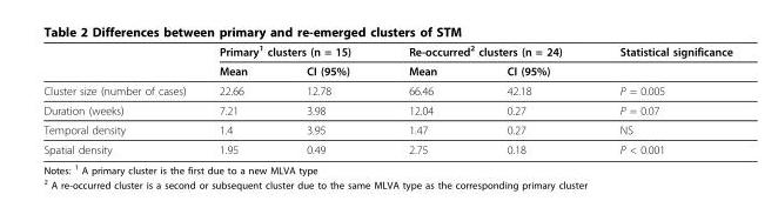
<table><thead><tr><td rowspan="2"></td><td colspan="2">Primary<sup>1</sup> clusters (n = 15)</td><td colspan="2">Re-occurred<sup>2</sup> clusters (n = 24)</td><td rowspan="2">Statistical significance</td></tr><tr><td>Mean</td><td>CI (95%)</td><td>Mean</td><td>CI (95%)</td></tr></thead><tbody><tr><td>Cluster size (number of cases)</td><td>22.66</td><td>12.78</td><td>66.46</td><td>42.18</td><td>P = 0.005</td></tr><tr><td>Duration (weeks)</td><td>7.21</td><td>3.98</td><td>12.04</td><td>0.27</td><td>P = 0.07</td></tr><tr><td>Temporal density</td><td>1.4</td><td>3.95</td><td>1.47</td><td>0.27</td><td>NS</td></tr><tr><td>Spatial density</td><td>1.95</td><td>0.49</td><td>2.75</td><td>0.18</td><td>P &lt; 0.001</td></tr></tbody></table>